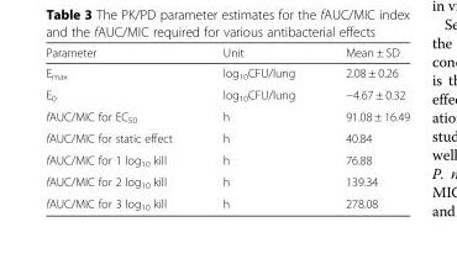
<table><thead><tr><td>Parameter</td><td>Unit</td><td>Mean ± SD</td></tr></thead><tbody><tr><td>E<sub>max</sub></td><td>log<sub>10</sub>CFU/lung</td><td>2.08 ± 0.26</td></tr><tr><td>E<sub>0</sub></td><td>log<sub>10</sub>CFU/lung</td><td>−4.67 ± 0.32</td></tr><tr><td>fAUC/MIC for EC<sub>50</sub></td><td>h</td><td>91.08 ± 16.49</td></tr><tr><td>fAUC/MIC for static effect</td><td>h</td><td>40.84</td></tr><tr><td>fAUC/MIC for 1 log<sub>10</sub> kill</td><td>h</td><td>76.88</td></tr><tr><td>fAUC/MIC for 2 log<sub>10</sub> kill</td><td>h</td><td>139.34</td></tr><tr><td>fAUC/MIC for 3 log<sub>10</sub> kill</td><td>h</td><td>278.08</td></tr></tbody></table>